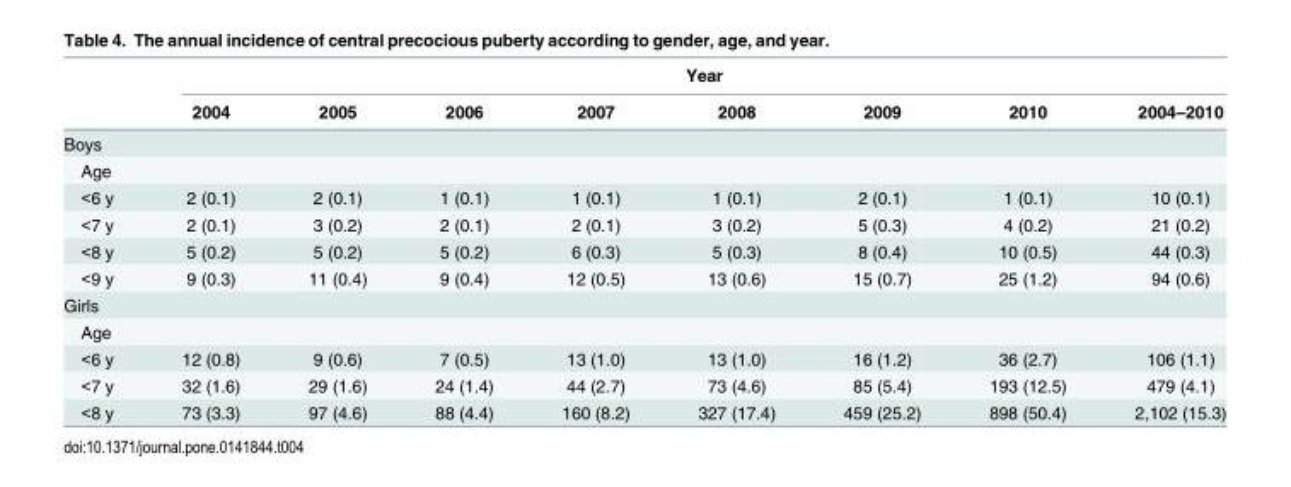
<table><thead><tr><td rowspan="2"></td><td colspan="8">Year</td></tr><tr><td>2004</td><td>2005</td><td>2006</td><td>2007</td><td>2008</td><td>2009</td><td>2010</td><td>2004–2010</td></tr></thead><tbody><tr><td colspan="9">Boys</td></tr><tr><td colspan="9">Age</td></tr><tr><td>&lt;6 y</td><td>2 (0.1)</td><td>2 (0.1)</td><td>1 (0.1)</td><td>1 (0.1)</td><td>1 (0.1)</td><td>2 (0.1)</td><td>1 (0.1)</td><td>10 (0.1)</td></tr><tr><td>&lt;7 y</td><td>2 (0.1)</td><td>3 (0.2)</td><td>2 (0.1)</td><td>2 (0.1)</td><td>3 (0.2)</td><td>5 (0.3)</td><td>4 (0.2)</td><td>21 (0.2)</td></tr><tr><td>&lt;8 y</td><td>5 (0.2)</td><td>5 (0.2)</td><td>5 (0.2)</td><td>6 (0.3)</td><td>5 (0.3)</td><td>8 (0.4)</td><td>10 (0.5)</td><td>44 (0.3)</td></tr><tr><td>&lt;9 y</td><td>9 (0.3)</td><td>11 (0.4)</td><td>9 (0.4)</td><td>12 (0.5)</td><td>13 (0.6)</td><td>15 (0.7)</td><td>25 (1.2)</td><td>94 (0.6)</td></tr><tr><td colspan="9">Girls</td></tr><tr><td colspan="9">Age</td></tr><tr><td>&lt;6 y</td><td>12 (0.8)</td><td>9 (0.6)</td><td>7 (0.5)</td><td>13 (1.0)</td><td>13 (1.0)</td><td>16 (1.2)</td><td>36 (2.7)</td><td>106 (1.1)</td></tr><tr><td>&lt;7 y</td><td>32 (1.6)</td><td>29 (1.6)</td><td>24 (1.4)</td><td>44 (2.7)</td><td>73 (4.6)</td><td>85 (5.4)</td><td>193 (12.5)</td><td>479 (4.1)</td></tr><tr><td>&lt;8 y</td><td>73 (3.3)</td><td>97 (4.6)</td><td>88 (4.4)</td><td>160 (8.2)</td><td>327 (17.4)</td><td>459 (25.2)</td><td>898 (50.4)</td><td>2,102 (15.3)</td></tr></tbody></table>